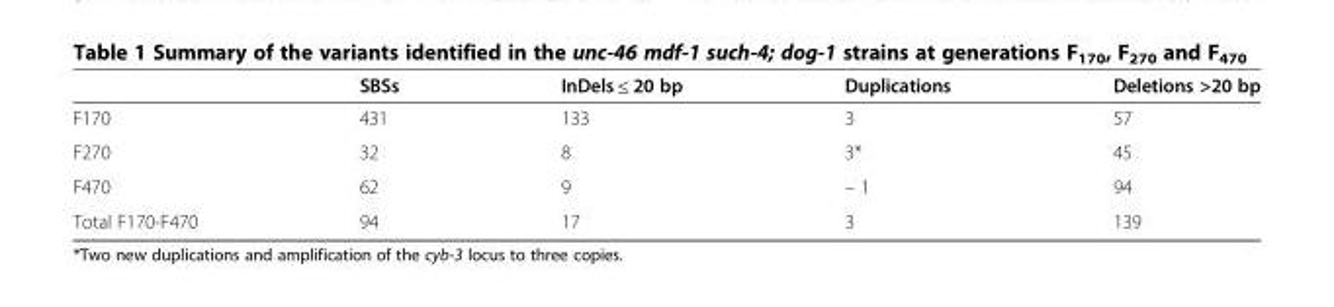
<table><thead><tr><td></td><td>SBSs</td><td>InDels ≤ 20 bp</td><td>Duplications</td><td>Deletions &gt;20 bp</td></tr></thead><tbody><tr><td>F170</td><td>431</td><td>133</td><td>3</td><td>57</td></tr><tr><td>F270</td><td>32</td><td>8</td><td>3*</td><td>45</td></tr><tr><td>F470</td><td>62</td><td>9</td><td>– 1</td><td>94</td></tr><tr><td>Total F170-F470</td><td>94</td><td>17</td><td>3</td><td>139</td></tr></tbody></table>